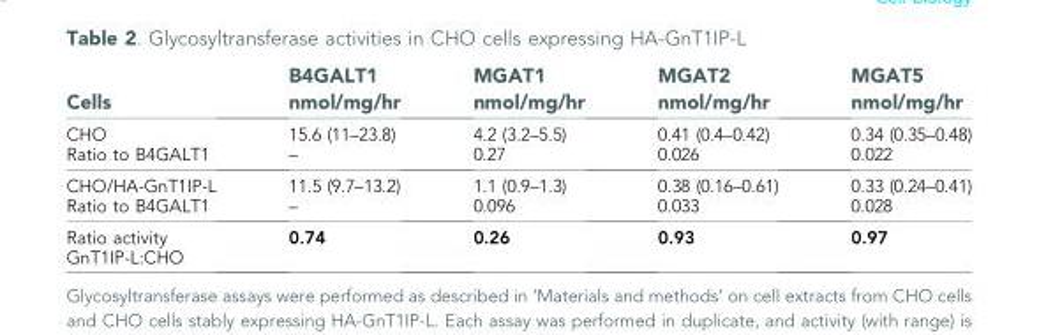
<table><thead><tr><td>Cells</td><td>B4GALT1 nmol/mg/hr</td><td>MGAT1 nmol/mg/hr</td><td>MGAT2 nmol/mg/hr</td><td>MGAT5 nmol/mg/hr</td></tr></thead><tbody><tr><td>CHO Ratio to B4GALT1</td><td>15.6 (11–23.8) –</td><td>4.2 (3.2–5.5) 0.27</td><td>0.41 (0.4–0.42) 0.026</td><td>0.34 (0.35–0.48) 0.022</td></tr><tr><td>CHO/HA-GnT1IP-L Ratio to B4GALT1</td><td>11.5 (9.7–13.2) –</td><td>1.1 (0.9–1.3) 0.096</td><td>0.38 (0.16–0.61) 0.033</td><td>0.33 (0.24–0.41) 0.028</td></tr><tr><td>Ratio activity GnT1IP-L:CHO</td><td>0.74</td><td>0.26</td><td>0.93</td><td>0.97</td></tr></tbody></table>